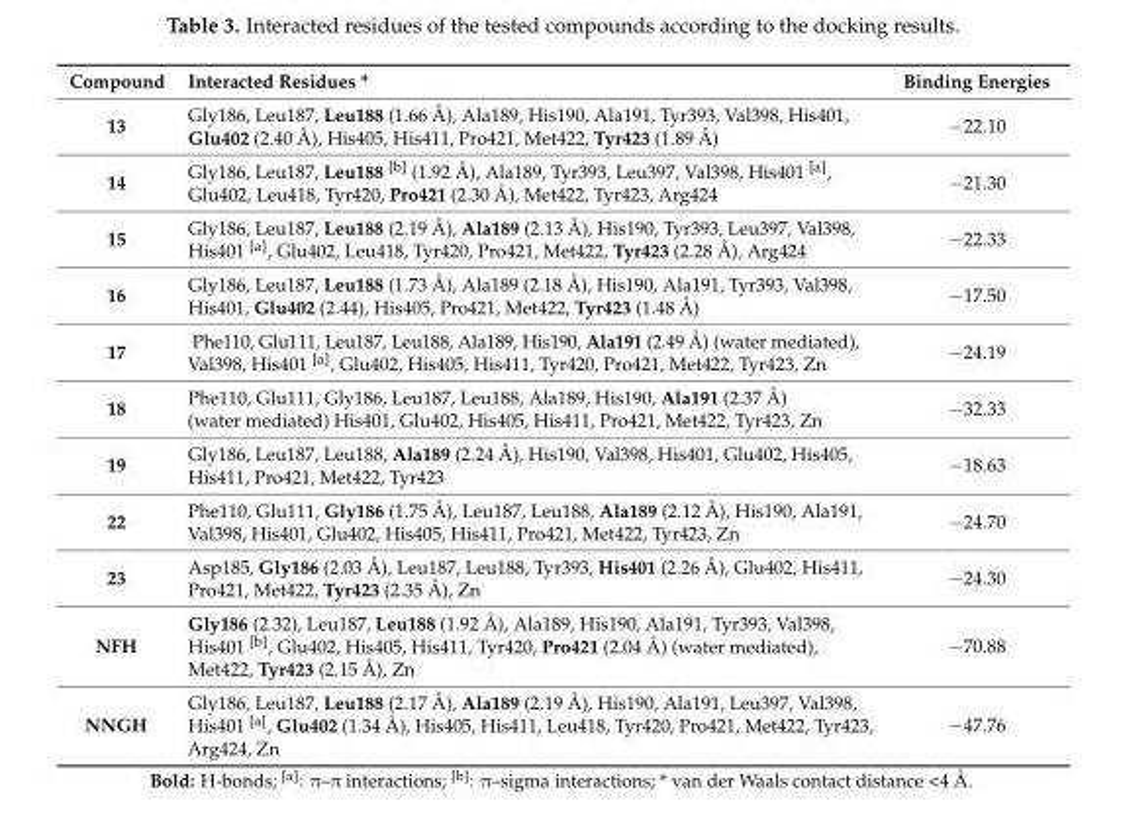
<table><thead><tr><td>Compound</td><td>Interacted Residues *</td><td>Binding Energies</td></tr></thead><tbody><tr><td>13</td><td>Gly186, Leu187, Leu188 (1.66 Å), Ala189, His190, Ala191, Tyr393, Val398, His401, Glu402 (2.40 Å), His405, His411, Pro421, Met422, Tyr423 (1.89 Å)</td><td>−22.10</td></tr><tr><td>14</td><td>Gly186, Leu187, Leu188 [b] (1.92 Å), Ala189, Tyr393, Leu397, Val398, His401 [a], Glu402, Leu418, Tyr420, Pro421 (2.30 Å), Met422, Tyr423, Arg424</td><td>−21.30</td></tr><tr><td>15</td><td>Gly186, Leu187, Leu188 (2.19 Å), Ala189 (2.13 Å), His190, Tyr393, Leu397, Val398, His401 [a], Glu402, Leu418, Tyr420, Pro421, Met422, Tyr423 (2.28 Å), Arg424</td><td>−22.33</td></tr><tr><td>16</td><td>Gly186, Leu187, Leu188 (1.73 Å), Ala189 (2.18 Å), His190, Ala191, Tyr393, Val398, His401, Glu402 (2.44), His405, Pro421, Met422, Tyr423 (1.48 Å)</td><td>−17.50</td></tr><tr><td>17</td><td>Phe110, Glu111, Leu187, Leu188, Ala189, His190, Ala191 (2.49 Å) (water mediated), Val398, His401 [a], Glu402, His405, His411, Tyr420, Pro421, Met422, Tyr423, Zn</td><td>−24.19</td></tr><tr><td>18</td><td>Phe110, Glu111, Gly186, Leu187, Leu188, Ala189, His190, Ala191 (2.37 Å) (water mediated) His401, Glu402, His405, His411, Pro421, Met422, Tyr423, Zn</td><td>−32.33</td></tr><tr><td>19</td><td>Gly186, Leu187, Leu188, Ala189 (2.24 Å), His190, Val398, His401, Glu402, His405, His411, Pro421, Met422, Tyr423</td><td>−18.63</td></tr><tr><td>22</td><td>Phe110, Glu111, Gly186 (1.75 Å), Leu187, Leu188, Ala189 (2.12 Å), His190, Ala191, Val398, His401, Glu402, His405, His411, Pro421, Met422, Tyr423, Zn</td><td>−24.70</td></tr><tr><td>23</td><td>Asp185, Gly186 (2.03 Å), Leu187, Leu188, Tyr393, His401 (2.26 Å), Glu402, His411, Pro421, Met422, Tyr423 (2.35 Å), Zn</td><td>−24.30</td></tr><tr><td>NFH</td><td>Gly186 (2.32), Leu187, Leu188 (1.92 Å), Ala189, His190, Ala191, Tyr393, Val398, His401 [b], Glu402, His405, His411, Tyr420, Pro421 (2.04 Å) (water mediated), Met422, Tyr423 (2.15 Å), Zn</td><td>−70.88</td></tr><tr><td>NNGH</td><td>Gly186, Leu187, Leu188 (2.17 Å), Ala189 (2.19 Å), His190, Ala191, Leu397, Val398, His401 [a], Glu402 (1.34 Å), His405, His411, Leu418, Tyr420, Pro421, Met422, Tyr423, Arg424, Zn</td><td>−47.76</td></tr></tbody></table>